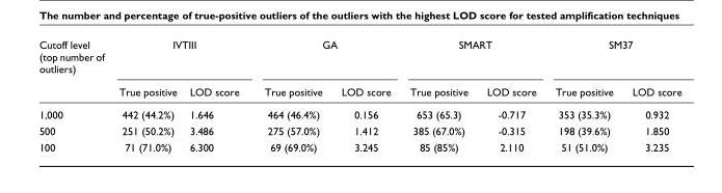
<table><thead><tr><td rowspan="2">Cutoff level (top number of outliers)</td><td colspan="2">IVTIII</td><td colspan="2">GA</td><td colspan="2">SMART</td><td colspan="2">SM37</td></tr><tr><td>True positive</td><td>LOD score</td><td>True positive</td><td>LOD score</td><td>True positive</td><td>LOD score</td><td>True positive</td><td>LOD score</td></tr></thead><tbody><tr><td>1,000</td><td>442 (44.2%)</td><td>1.646</td><td>464 (46.4%)</td><td>0.156</td><td>653 (65.3)</td><td>-0.717</td><td>353 (35.3%)</td><td>0.932</td></tr><tr><td>500</td><td>251 (50.2%)</td><td>3.486</td><td>275 (57.0%)</td><td>1.412</td><td>385 (67.0%)</td><td>-0.315</td><td>198 (39.6%)</td><td>1.850</td></tr><tr><td>100</td><td>71 (71.0%)</td><td>6.300</td><td>69 (69.0%)</td><td>3.245</td><td>85 (85%)</td><td>2.110</td><td>51 (51.0%)</td><td>3.235</td></tr></tbody></table>